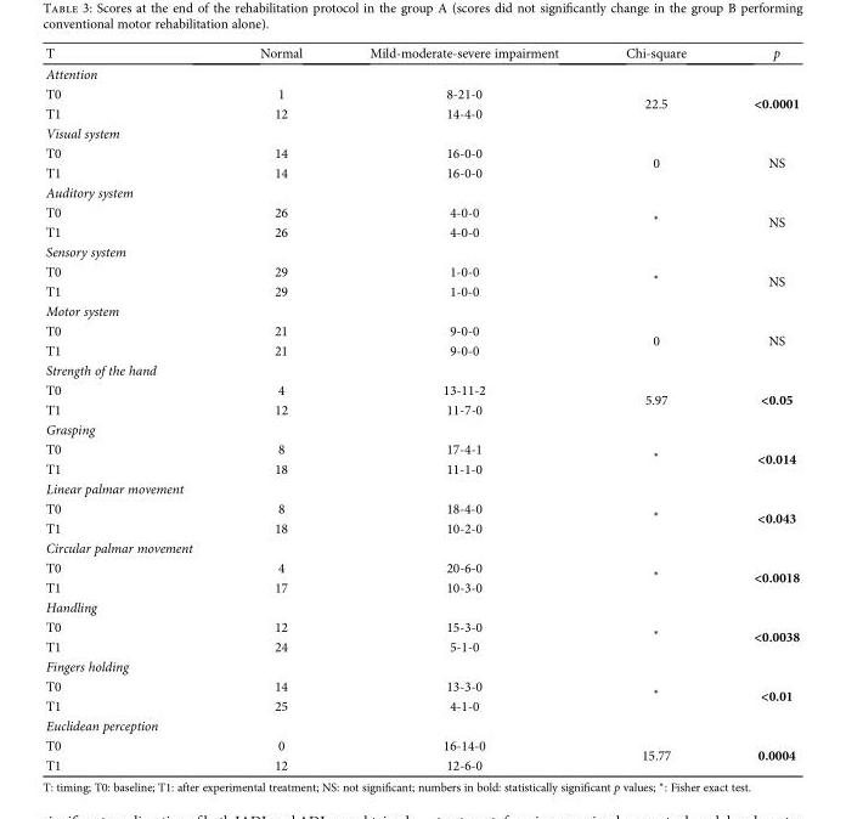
<table><thead><tr><td>T</td><td>Normal</td><td>Mild-moderate-severe impairment</td><td>Chi-square</td><td>p</td></tr></thead><tbody><tr><td colspan="5">Attention</td></tr><tr><td>T0</td><td>1</td><td>8-21-0</td><td rowspan="2">22.5</td><td rowspan="2">&lt;0.0001</td></tr><tr><td>T1</td><td>12</td><td>14-4-0</td></tr><tr><td colspan="5">Visual system</td></tr><tr><td>T0</td><td>14</td><td>16-0-0</td><td rowspan="2">0</td><td rowspan="2">NS</td></tr><tr><td>T1</td><td>14</td><td>16-0-0</td></tr><tr><td colspan="5">Auditory system</td></tr><tr><td>T0</td><td>26</td><td>4-0-0</td><td rowspan="2">∗</td><td rowspan="2">NS</td></tr><tr><td>T1</td><td>26</td><td>4-0-0</td></tr><tr><td colspan="5">Sensory system</td></tr><tr><td>T0</td><td>29</td><td>1-0-0</td><td rowspan="2">∗</td><td rowspan="2">NS</td></tr><tr><td>T1</td><td>29</td><td>1-0-0</td></tr><tr><td colspan="5">Motor system</td></tr><tr><td>T0</td><td>21</td><td>9-0-0</td><td rowspan="2">0</td><td rowspan="2">NS</td></tr><tr><td>T1</td><td>21</td><td>9-0-0</td></tr><tr><td colspan="5">Strength of the hand</td></tr><tr><td>T0</td><td>4</td><td>13-11-2</td><td rowspan="2">5.97</td><td rowspan="2">&lt;0.05</td></tr><tr><td>T1</td><td>12</td><td>11-7-0</td></tr><tr><td colspan="5">Grasping</td></tr><tr><td>T0</td><td>8</td><td>17-4-1</td><td rowspan="2">∗</td><td rowspan="2">&lt;0.014</td></tr><tr><td>T1</td><td>18</td><td>11-1-0</td></tr><tr><td colspan="5">Linear palmar movement</td></tr><tr><td>T0</td><td>8</td><td>18-4-0</td><td rowspan="2">∗</td><td rowspan="2">&lt;0.043</td></tr><tr><td>T1</td><td>18</td><td>10-2-0</td></tr><tr><td colspan="5">Circular palmar movement</td></tr><tr><td>T0</td><td>4</td><td>20-6-0</td><td rowspan="2">∗</td><td rowspan="2">&lt;0.0018</td></tr><tr><td>T1</td><td>17</td><td>10-3-0</td></tr><tr><td colspan="5">Handling</td></tr><tr><td>T0</td><td>12</td><td>15-3-0</td><td rowspan="2">∗</td><td rowspan="2">&lt;0.0038</td></tr><tr><td>T1</td><td>24</td><td>5-1-0</td></tr><tr><td colspan="5">Fingers holding</td></tr><tr><td>T0</td><td>14</td><td>13-3-0</td><td rowspan="2">∗</td><td rowspan="2">&lt;0.01</td></tr><tr><td>T1</td><td>25</td><td>4-1-0</td></tr><tr><td colspan="5">Euclidean perception</td></tr><tr><td>T0</td><td>0</td><td>16-14-0</td><td rowspan="2">15.77</td><td rowspan="2">0.0004</td></tr><tr><td>T1</td><td>12</td><td>12-6-0</td></tr></tbody></table>